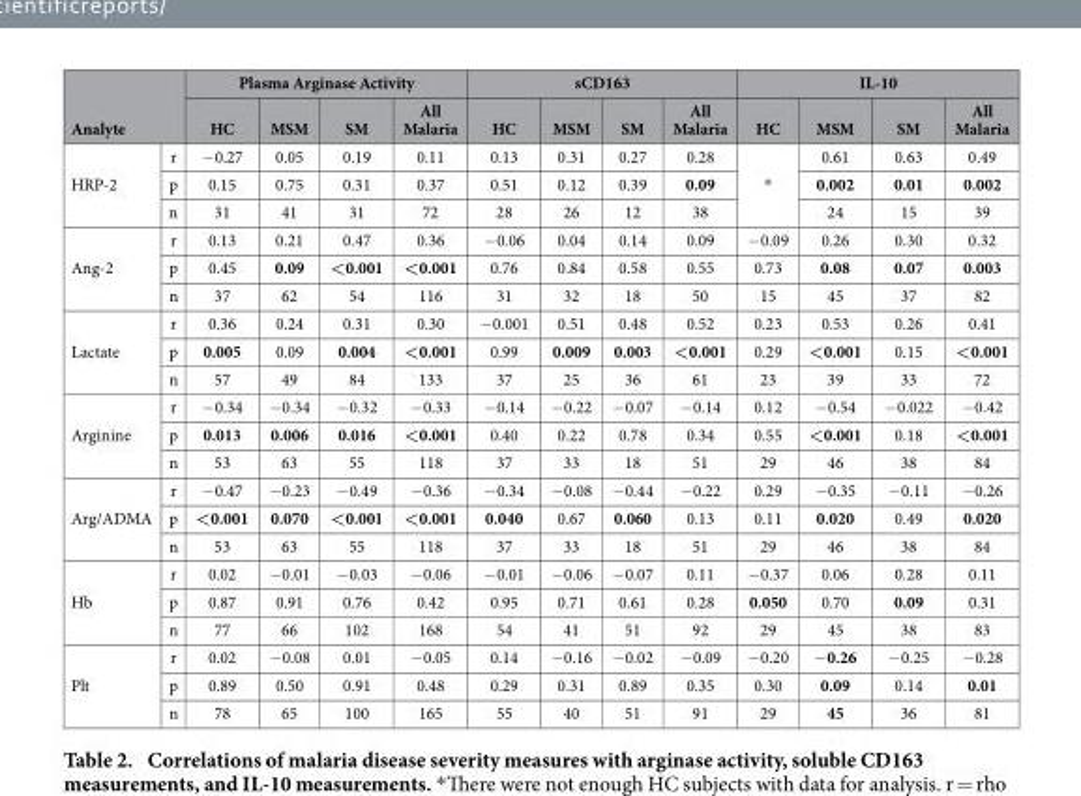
<table><thead><tr><td></td><td></td><td colspan="4">Plasma Arginase Activity</td><td colspan="4">sCD163</td><td colspan="4">IL-10</td></tr><tr><td colspan="2">Analyte</td><td>HC</td><td>MSM</td><td>SM</td><td>All Malaria</td><td>HC</td><td>MSM</td><td>SM</td><td>All Malaria</td><td>HC</td><td>MSM</td><td>SM</td><td>All Malaria</td></tr></thead><tbody><tr><td rowspan="3">HRP-2</td><td>r</td><td>− 0.27</td><td>0.05</td><td>0.19</td><td>0.11</td><td>0.13</td><td>0.31</td><td>0.27</td><td>0.28</td><td rowspan="3">*</td><td>0.61</td><td>0.63</td><td>0.49</td></tr><tr><td>p</td><td>0.15</td><td>0.75</td><td>0.31</td><td>0.37</td><td>0.51</td><td>0.12</td><td>0.39</td><td>0.09</td><td>0.002</td><td>0.01</td><td>0.002</td></tr><tr><td>n</td><td>31</td><td>41</td><td>31</td><td>72</td><td>28</td><td>26</td><td>12</td><td>38</td><td>24</td><td>15</td><td>39</td></tr><tr><td rowspan="3">Ang-2</td><td>r</td><td>0.13</td><td>0.21</td><td>0.47</td><td>0.36</td><td>− 0.06</td><td>0.04</td><td>0.14</td><td>0.09</td><td>− 0.09</td><td>0.26</td><td>0.30</td><td>0.32</td></tr><tr><td>p</td><td>0.45</td><td>0.09</td><td>&lt;0.001</td><td>&lt;0.001</td><td>0.76</td><td>0.84</td><td>0.58</td><td>0.55</td><td>0.73</td><td>0.08</td><td>0.07</td><td>0.003</td></tr><tr><td>n</td><td>37</td><td>62</td><td>54</td><td>116</td><td>31</td><td>32</td><td>18</td><td>50</td><td>15</td><td>45</td><td>37</td><td>82</td></tr><tr><td rowspan="3">Lactate</td><td>r</td><td>0.36</td><td>0.24</td><td>0.31</td><td>0.30</td><td>− 0.001</td><td>0.51</td><td>0.48</td><td>0.52</td><td>0.23</td><td>0.53</td><td>0.26</td><td>0.41</td></tr><tr><td>p</td><td>0.005</td><td>0.09</td><td>0.004</td><td>&lt;0.001</td><td>0.99</td><td>0.009</td><td>0.003</td><td>&lt;0.001</td><td>0.29</td><td>&lt;0.001</td><td>0.15</td><td>&lt;0.001</td></tr><tr><td>n</td><td>57</td><td>49</td><td>84</td><td>133</td><td>37</td><td>25</td><td>36</td><td>61</td><td>23</td><td>39</td><td>33</td><td>72</td></tr><tr><td rowspan="3">Arginine</td><td>r</td><td>− 0.34</td><td>− 0.34</td><td>− 0.32</td><td>− 0.33</td><td>− 0.14</td><td>− 0.22</td><td>− 0.07</td><td>− 0.14</td><td>0.12</td><td>− 0.54</td><td>− 0.022</td><td>− 0.42</td></tr><tr><td>p</td><td>0.013</td><td>0.006</td><td>0.016</td><td>&lt;0.001</td><td>0.40</td><td>0.22</td><td>0.78</td><td>0.34</td><td>0.55</td><td>&lt;0.001</td><td>0.18</td><td>&lt;0.001</td></tr><tr><td>n</td><td>53</td><td>63</td><td>55</td><td>118</td><td>37</td><td>33</td><td>18</td><td>51</td><td>29</td><td>46</td><td>38</td><td>84</td></tr><tr><td rowspan="3">Arg/ADMA</td><td>r</td><td>− 0.47</td><td>− 0.23</td><td>− 0.49</td><td>− 0.36</td><td>− 0.34</td><td>− 0.08</td><td>− 0.44</td><td>− 0.22</td><td>0.29</td><td>− 0.35</td><td>− 0.11</td><td>− 0.26</td></tr><tr><td>p</td><td>&lt;0.001</td><td>0.070</td><td>&lt;0.001</td><td>&lt;0.001</td><td>0.040</td><td>0.67</td><td>0.060</td><td>0.13</td><td>0.11</td><td>0.020</td><td>0.49</td><td>0.020</td></tr><tr><td>n</td><td>53</td><td>63</td><td>55</td><td>118</td><td>37</td><td>33</td><td>18</td><td>51</td><td>29</td><td>46</td><td>38</td><td>84</td></tr><tr><td rowspan="3">Hb</td><td>r</td><td>0.02</td><td>− 0.01</td><td>− 0.03</td><td>− 0.06</td><td>− 0.01</td><td>− 0.06</td><td>− 0.07</td><td>0.11</td><td>− 0.37</td><td>0.06</td><td>0.28</td><td>0.11</td></tr><tr><td>p</td><td>0.87</td><td>0.91</td><td>0.76</td><td>0.42</td><td>0.95</td><td>0.71</td><td>0.61</td><td>0.28</td><td>0.050</td><td>0.70</td><td>0.09</td><td>0.31</td></tr><tr><td>n</td><td>77</td><td>66</td><td>102</td><td>168</td><td>54</td><td>41</td><td>51</td><td>92</td><td>29</td><td>45</td><td>38</td><td>83</td></tr><tr><td rowspan="3">Plt</td><td>r</td><td>0.02</td><td>− 0.08</td><td>0.01</td><td>− 0.05</td><td>0.14</td><td>− 0.16</td><td>− 0.02</td><td>− 0.09</td><td>− 0.20</td><td>− 0.26</td><td>− 0.25</td><td>− 0.28</td></tr><tr><td>p</td><td>0.89</td><td>0.50</td><td>0.91</td><td>0.48</td><td>0.29</td><td>0.31</td><td>0.89</td><td>0.35</td><td>0.30</td><td>0.09</td><td>0.14</td><td>0.01</td></tr><tr><td>n</td><td>78</td><td>65</td><td>100</td><td>165</td><td>55</td><td>40</td><td>51</td><td>91</td><td>29</td><td>45</td><td>36</td><td>81</td></tr></tbody></table>